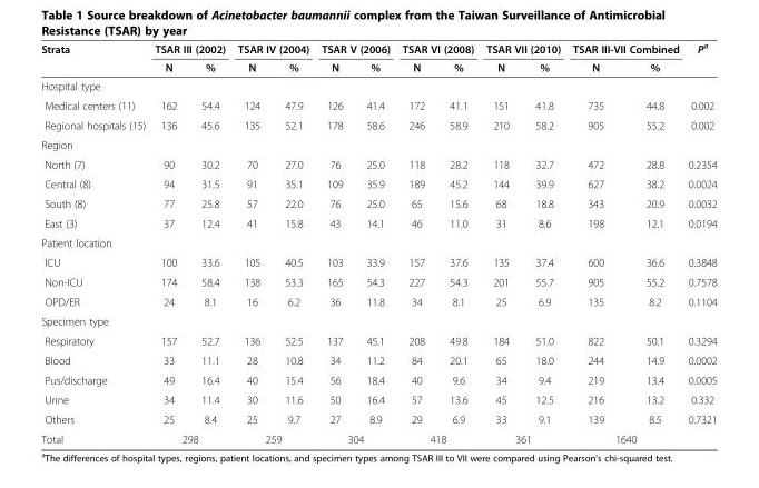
<table><thead><tr><td rowspan="2">Strata</td><td colspan="2">TSAR III (2002)</td><td colspan="2">TSAR IV (2004)</td><td colspan="2">TSAR V (2006)</td><td colspan="2">TSAR VI (2008)</td><td colspan="2">TSAR VII (2010)</td><td colspan="2">TSAR III-VII Combined</td><td rowspan="2">P<sup>a</sup></td></tr><tr><td>N</td><td>%</td><td>N</td><td>%</td><td>N</td><td>%</td><td>N</td><td>%</td><td>N</td><td>%</td><td>N</td><td>%</td></tr></thead><tbody><tr><td colspan="14">Hospital type</td></tr><tr><td>Medical centers (11)</td><td>162</td><td>54.4</td><td>124</td><td>47.9</td><td>126</td><td>41.4</td><td>172</td><td>41.1</td><td>151</td><td>41.8</td><td>735</td><td>44.8</td><td>0.002</td></tr><tr><td>Regional hospitals (15)</td><td>136</td><td>45.6</td><td>135</td><td>52.1</td><td>178</td><td>58.6</td><td>246</td><td>58.9</td><td>210</td><td>58.2</td><td>905</td><td>55.2</td><td>0.002</td></tr><tr><td colspan="14">Region</td></tr><tr><td>North (7)</td><td>90</td><td>30.2</td><td>70</td><td>27.0</td><td>76</td><td>25.0</td><td>118</td><td>28.2</td><td>118</td><td>32.7</td><td>472</td><td>28.8</td><td>0.2354</td></tr><tr><td>Central (8)</td><td>94</td><td>31.5</td><td>91</td><td>35.1</td><td>109</td><td>35.9</td><td>189</td><td>45.2</td><td>144</td><td>39.9</td><td>627</td><td>38.2</td><td>0.0024</td></tr><tr><td>South (8)</td><td>77</td><td>25.8</td><td>57</td><td>22.0</td><td>76</td><td>25.0</td><td>65</td><td>15.6</td><td>68</td><td>18.8</td><td>343</td><td>20.9</td><td>0.0032</td></tr><tr><td>East (3)</td><td>37</td><td>12.4</td><td>41</td><td>15.8</td><td>43</td><td>14.1</td><td>46</td><td>11.0</td><td>31</td><td>8.6</td><td>198</td><td>12.1</td><td>0.0194</td></tr><tr><td colspan="14">Patient location</td></tr><tr><td>ICU</td><td>100</td><td>33.6</td><td>105</td><td>40.5</td><td>103</td><td>33.9</td><td>157</td><td>37.6</td><td>135</td><td>37.4</td><td>600</td><td>36.6</td><td>0.3848</td></tr><tr><td>Non-ICU</td><td>174</td><td>58.4</td><td>138</td><td>53.3</td><td>165</td><td>54.3</td><td>227</td><td>54.3</td><td>201</td><td>55.7</td><td>905</td><td>55.2</td><td>0.7578</td></tr><tr><td>OPD/ER</td><td>24</td><td>8.1</td><td>16</td><td>6.2</td><td>36</td><td>11.8</td><td>34</td><td>8.1</td><td>25</td><td>6.9</td><td>135</td><td>8.2</td><td>0.1104</td></tr><tr><td colspan="14">Specimen type</td></tr><tr><td>Respiratory</td><td>157</td><td>52.7</td><td>136</td><td>52.5</td><td>137</td><td>45.1</td><td>208</td><td>49.8</td><td>184</td><td>51.0</td><td>822</td><td>50.1</td><td>0.3294</td></tr><tr><td>Blood</td><td>33</td><td>11.1</td><td>28</td><td>10.8</td><td>34</td><td>11.2</td><td>84</td><td>20.1</td><td>65</td><td>18.0</td><td>244</td><td>14.9</td><td>0.0002</td></tr><tr><td>Pus/discharge</td><td>49</td><td>16.4</td><td>40</td><td>15.4</td><td>56</td><td>18.4</td><td>40</td><td>9.6</td><td>34</td><td>9.4</td><td>219</td><td>13.4</td><td>0.0005</td></tr><tr><td>Urine</td><td>34</td><td>11.4</td><td>30</td><td>11.6</td><td>50</td><td>16.4</td><td>57</td><td>13.6</td><td>45</td><td>12.5</td><td>216</td><td>13.2</td><td>0.332</td></tr><tr><td>Others</td><td>25</td><td>8.4</td><td>25</td><td>9.7</td><td>27</td><td>8.9</td><td>29</td><td>6.9</td><td>33</td><td>9.1</td><td>139</td><td>8.5</td><td>0.7321</td></tr><tr><td>Total</td><td colspan="2">298</td><td colspan="2">259</td><td colspan="2">304</td><td colspan="2">418</td><td colspan="2">361</td><td colspan="2">1640</td><td></td></tr></tbody></table>